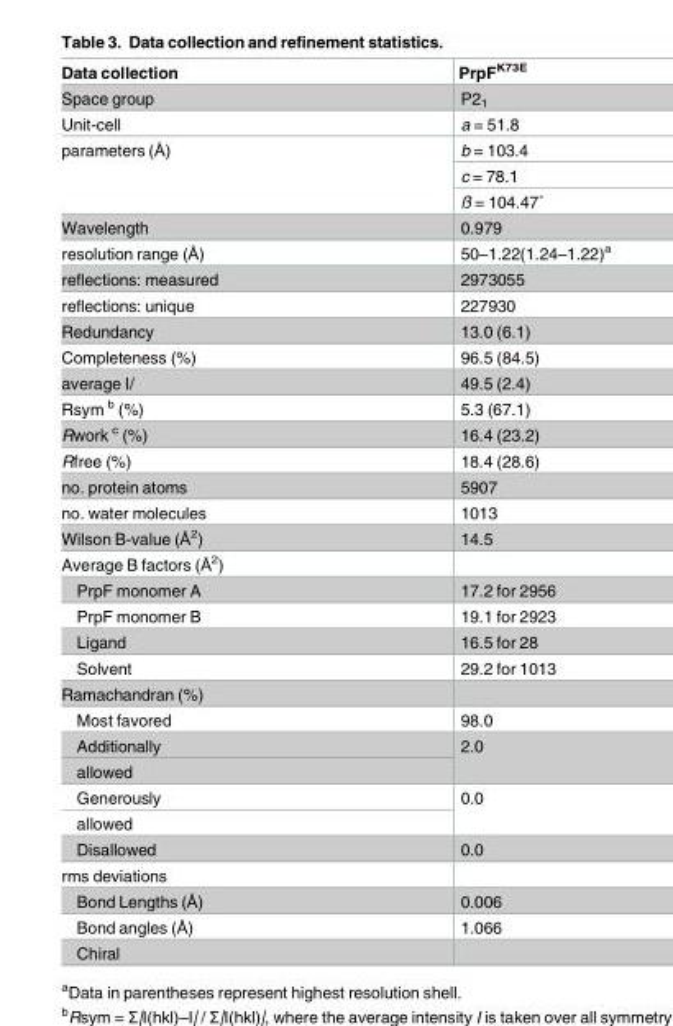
<table><thead><tr><td>Data collection</td><td>PrpF<sup>K73E</sup></td></tr></thead><tbody><tr><td>Space group</td><td>P2<sub>1</sub></td></tr><tr><td>Unit-cell</td><td>a = 51.8</td></tr><tr><td rowspan="3">parameters (Å)</td><td>b = 103.4</td></tr><tr><td>c = 78.1</td></tr><tr><td>ß = 104.47˚</td></tr><tr><td>Wavelength</td><td>0.979</td></tr><tr><td>resolution range (Å)</td><td>50–1.22(1.24–1.22)<sup>a</sup></td></tr><tr><td>reflections: measured</td><td>2973055</td></tr><tr><td>reflections: unique</td><td>227930</td></tr><tr><td>Redundancy</td><td>13.0 (6.1)</td></tr><tr><td>Completeness (%)</td><td>96.5 (84.5)</td></tr><tr><td>average I/</td><td>49.5 (2.4)</td></tr><tr><td>Rsym <sup>b</sup> (%)</td><td>5.3 (67.1)</td></tr><tr><td>Rwork <sup>c</sup> (%)</td><td>16.4 (23.2)</td></tr><tr><td>Rfree (%)</td><td>18.4 (28.6)</td></tr><tr><td>no. protein atoms</td><td>5907</td></tr><tr><td>no. water molecules</td><td>1013</td></tr><tr><td>Wilson B-value (Å<sup>2</sup>)</td><td>14.5</td></tr><tr><td colspan="2">Average B factors (Å<sup>2</sup>)</td></tr><tr><td>PrpF monomer A</td><td>17.2 for 2956</td></tr><tr><td>PrpF monomer B</td><td>19.1 for 2923</td></tr><tr><td>Ligand</td><td>16.5 for 28</td></tr><tr><td>Solvent</td><td>29.2 for 1013</td></tr><tr><td colspan="2">Ramachandran (%)</td></tr><tr><td>Most favored</td><td>98.0</td></tr><tr><td>Additionally</td><td rowspan="2">2.0</td></tr><tr><td>allowed</td></tr><tr><td>Generously</td><td rowspan="2">0.0</td></tr><tr><td>allowed</td></tr><tr><td>Disallowed</td><td>0.0</td></tr><tr><td colspan="2">rms deviations</td></tr><tr><td>Bond Lengths (Å)</td><td>0.006</td></tr><tr><td>Bond angles (Å)</td><td>1.066</td></tr><tr><td>Chiral</td><td></td></tr></tbody></table>